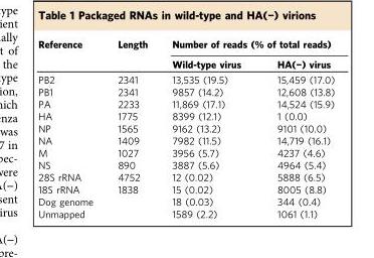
<table><thead><tr><td rowspan="2">Reference</td><td rowspan="2">Length</td><td colspan="2">Number of reads (% of total reads)</td></tr><tr><td>Wild-type virus</td><td>HA(−) virus</td></tr></thead><tbody><tr><td>PB2</td><td>2341</td><td>13,535 (19.5)</td><td>15,459 (17.0)</td></tr><tr><td>PB1</td><td>2341</td><td>9857 (14.2)</td><td>12,608 (13.8)</td></tr><tr><td>PA</td><td>2233</td><td>11,869 (17.1)</td><td>14,524 (15.9)</td></tr><tr><td>HA</td><td>1775</td><td>8399 (12.1)</td><td>1 (0.0)</td></tr><tr><td>NP</td><td>1565</td><td>9162 (13.2)</td><td>9101 (10.0)</td></tr><tr><td>NA</td><td>1409</td><td>7982 (11.5)</td><td>14,719 (16.1)</td></tr><tr><td>M</td><td>1027</td><td>3956 (5.7)</td><td>4237 (4.6)</td></tr><tr><td>NS</td><td>890</td><td>3887 (5.6)</td><td>4964 (5.4)</td></tr><tr><td>28S rRNA</td><td>4752</td><td>12 (0.02)</td><td>5888 (6.5)</td></tr><tr><td>18S rRNA</td><td>1838</td><td>15 (0.02)</td><td>8005 (8.8)</td></tr><tr><td>Dog genome</td><td></td><td>18 (0.03)</td><td>344 (0.4)</td></tr><tr><td>Unmapped</td><td></td><td>1589 (2.2)</td><td>1061 (1.1)</td></tr></tbody></table>